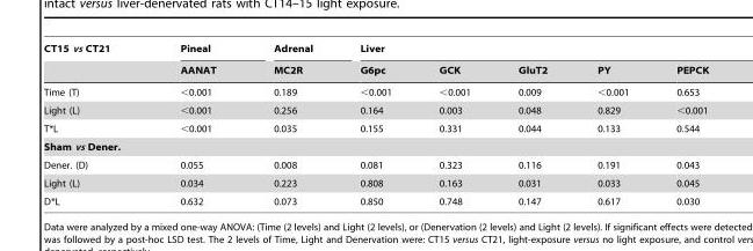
<table><thead><tr><td rowspan="2">CT15 vs CT21</td><td rowspan="2">Pineal AANAT</td><td rowspan="2">Adrenal MC2R</td><td colspan="5">Liver</td></tr><tr><td>G6pc</td><td>GCK</td><td>GluT2</td><td>PY</td><td>PEPCK</td></tr></thead><tbody><tr><td>Time (T)</td><td>&lt;0.001</td><td>0.189</td><td>&lt;0.001</td><td>&lt;0.001</td><td>0.009</td><td>&lt;0.001</td><td>0.653</td></tr><tr><td>Light (L)</td><td>&lt;0.001</td><td>0.256</td><td>0.164</td><td>0.003</td><td>0.048</td><td>0.829</td><td>&lt;0.001</td></tr><tr><td>T*L</td><td>&lt;0.001</td><td>0.035</td><td>0.155</td><td>0.331</td><td>0.044</td><td>0.133</td><td>0.544</td></tr><tr><td colspan="8">Sham vs Dener.</td></tr><tr><td>Dener. (D)</td><td>0.055</td><td>0.008</td><td>0.081</td><td>0.323</td><td>0.116</td><td>0.191</td><td>0.043</td></tr><tr><td>Light (L)</td><td>0.034</td><td>0.223</td><td>0.808</td><td>0.163</td><td>0.031</td><td>0.033</td><td>0.045</td></tr><tr><td>D*L</td><td>0.632</td><td>0.073</td><td>0.850</td><td>0.748</td><td>0.147</td><td>0.617</td><td>0.030</td></tr></tbody></table>